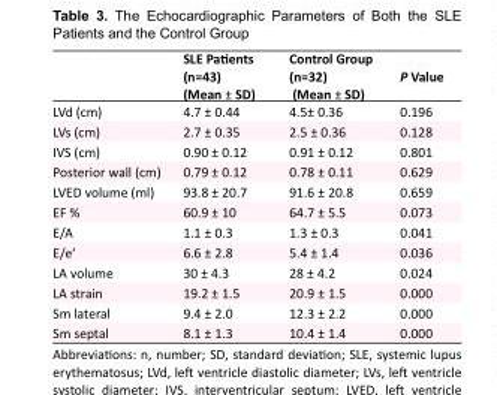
<table><thead><tr><td></td><td>SLE Patients (n=43) (Mean ± SD)</td><td>Control Group (n=32) (Mean ± SD)</td><td>P Value</td></tr></thead><tbody><tr><td>LVd (cm)</td><td>4.7 ± 0.44</td><td>4.5± 0.36</td><td>0.196</td></tr><tr><td>LVs (cm)</td><td>2.7 ± 0.35</td><td>2.5 ± 0.36</td><td>0.128</td></tr><tr><td>IVS (cm)</td><td>0.90 ± 0.12</td><td>0.91 ± 0.12</td><td>0.801</td></tr><tr><td>Posterior wall (cm)</td><td>0.79 ± 0.12</td><td>0.78 ± 0.11</td><td>0.629</td></tr><tr><td>LVED volume (ml)</td><td>93.8 ± 20.7</td><td>91.6 ± 20.8</td><td>0.659</td></tr><tr><td>EF %</td><td>60.9 ± 10</td><td>64.7 ± 5.5</td><td>0.073</td></tr><tr><td>E/A</td><td>1.1 ± 0.3</td><td>1.3 ± 0.3</td><td>0.041</td></tr><tr><td>E/e’</td><td>6.6 ± 2.8</td><td>5.4 ± 1.4</td><td>0.036</td></tr><tr><td>LA volume</td><td>30 ± 4.3</td><td>28 ± 4.2</td><td>0.024</td></tr><tr><td>LA strain</td><td>19.2 ± 1.5</td><td>20.9 ± 1.5</td><td>0.000</td></tr><tr><td>Sm lateral</td><td>9.4 ± 2.0</td><td>12.3 ± 2.2</td><td>0.000</td></tr><tr><td>Sm septal</td><td>8.1 ± 1.3</td><td>10.4 ± 1.4</td><td>0.000</td></tr></tbody></table>